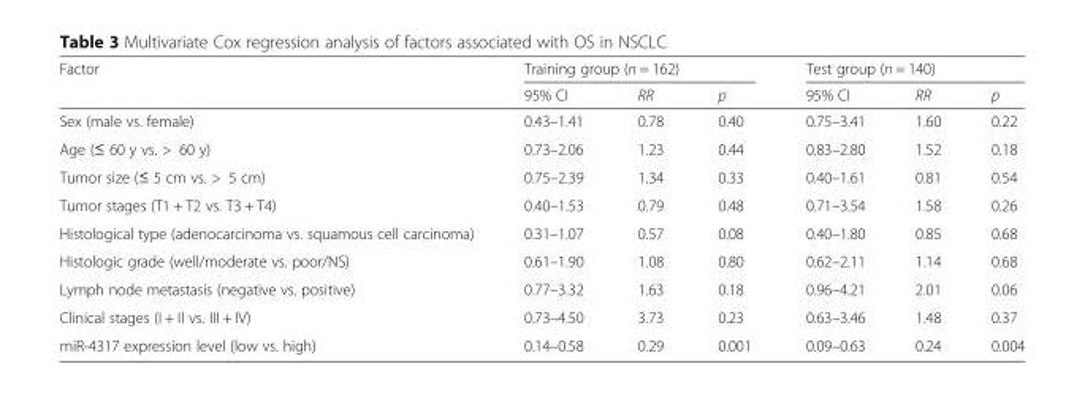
<table><thead><tr><td rowspan="2">Factor</td><td colspan="3">Training group (n = 162)</td><td colspan="3">Test group (n = 140)</td></tr><tr><td>95% CI</td><td>RR</td><td>p</td><td>95% CI</td><td>RR</td><td>p</td></tr></thead><tbody><tr><td>Sex (male vs. female)</td><td>0.43–1.41</td><td>0.78</td><td>0.40</td><td>0.75–3.41</td><td>1.60</td><td>0.22</td></tr><tr><td>Age (≤ 60 y vs. &gt; 60 y)</td><td>0.73–2.06</td><td>1.23</td><td>0.44</td><td>0.83–2.80</td><td>1.52</td><td>0.18</td></tr><tr><td>Tumor size (≤ 5 cm vs. &gt; 5 cm)</td><td>0.75–2.39</td><td>1.34</td><td>0.33</td><td>0.40–1.61</td><td>0.81</td><td>0.54</td></tr><tr><td>Tumor stages (T1 + T2 vs. T3 + T4)</td><td>0.40–1.53</td><td>0.79</td><td>0.48</td><td>0.71–3.54</td><td>1.58</td><td>0.26</td></tr><tr><td>Histological type (adenocarcinoma vs. squamous cell carcinoma)</td><td>0.31–1.07</td><td>0.57</td><td>0.08</td><td>0.40–1.80</td><td>0.85</td><td>0.68</td></tr><tr><td>Histologic grade (well/moderate vs. poor/NS)</td><td>0.61–1.90</td><td>1.08</td><td>0.80</td><td>0.62–2.11</td><td>1.14</td><td>0.68</td></tr><tr><td>Lymph node metastasis (negative vs. positive)</td><td>0.77–3.32</td><td>1.63</td><td>0.18</td><td>0.96–4.21</td><td>2.01</td><td>0.06</td></tr><tr><td>Clinical stages (I + II vs. III + IV)</td><td>0.73–4.50</td><td>3.73</td><td>0.23</td><td>0.63–3.46</td><td>1.48</td><td>0.37</td></tr><tr><td>miR-4317 expression level (low vs. high)</td><td>0.14–0.58</td><td>0.29</td><td>0.001</td><td>0.09–0.63</td><td>0.24</td><td>0.004</td></tr></tbody></table>